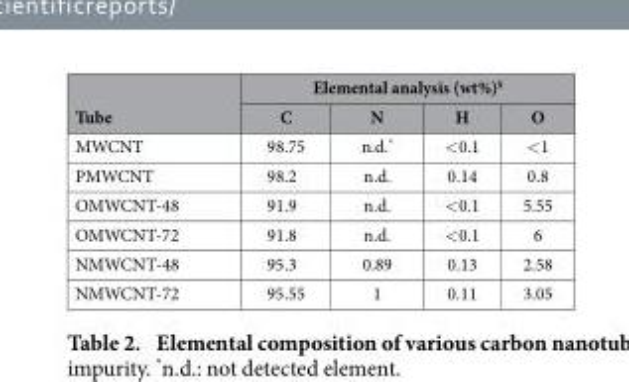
<table><thead><tr><td rowspan="2">Tube</td><td colspan="4">Elemental analysis (wt%)§</td></tr><tr><td>C</td><td>N</td><td>H</td><td>O</td></tr></thead><tbody><tr><td>MWCNT</td><td>98.75</td><td>n.d.*</td><td>&lt; 0.1</td><td>&lt; 1</td></tr><tr><td>PMWCNT</td><td>98.2</td><td>n.d.</td><td>0.14</td><td>0.8</td></tr><tr><td>OMWCNT-48</td><td>91.9</td><td>n.d.</td><td>&lt; 0.1</td><td>5.55</td></tr><tr><td>OMWCNT-72</td><td>91.8</td><td>n.d.</td><td>&lt; 0.1</td><td>6</td></tr><tr><td>NMWCNT-48</td><td>95.3</td><td>0.89</td><td>0.13</td><td>2.58</td></tr><tr><td>NMWCNT-72</td><td>95.55</td><td>1</td><td>0.11</td><td>3.05</td></tr></tbody></table>